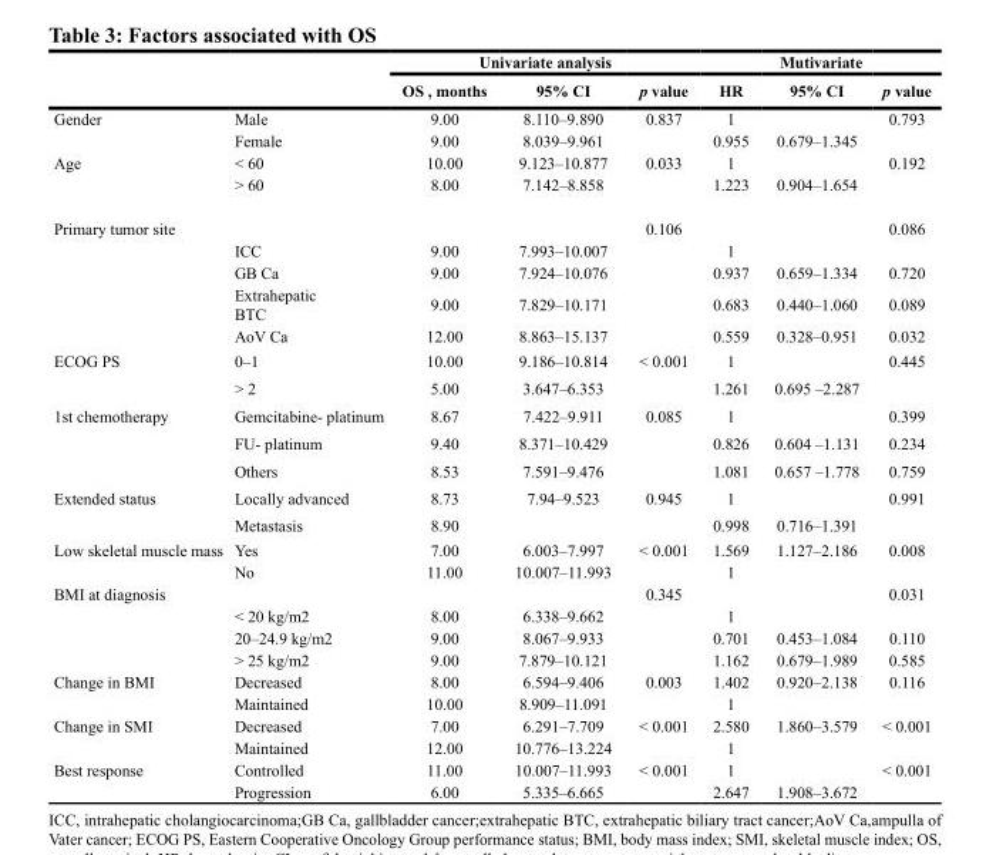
<table><thead><tr><td rowspan="2"></td><td rowspan="2"></td><td colspan="3">Univariate analysis</td><td colspan="3">Mutivariate</td></tr><tr><td>OS , months</td><td>95% CI</td><td>p value</td><td>HR</td><td>95% CI</td><td>p value</td></tr></thead><tbody><tr><td rowspan="2">Gender</td><td>Male</td><td>9.00</td><td>8.110–9.890</td><td>0.837</td><td>1</td><td></td><td>0.793</td></tr><tr><td>Female</td><td>9.00</td><td>8.039–9.961</td><td></td><td>0.955</td><td>0.679–1.345</td><td></td></tr><tr><td rowspan="2">Age</td><td>&lt; 60</td><td>10.00</td><td>9.123–10.877</td><td>0.033</td><td>1</td><td></td><td>0.192</td></tr><tr><td>&gt; 60</td><td>8.00</td><td>7.142–8.858</td><td></td><td>1.223</td><td>0.904–1.654</td><td></td></tr><tr><td rowspan="5">Primary tumor site</td><td></td><td></td><td></td><td>0.106</td><td></td><td></td><td>0.086</td></tr><tr><td>ICC</td><td>9.00</td><td>7.993–10.007</td><td></td><td>1</td><td></td><td></td></tr><tr><td>GB Ca</td><td>9.00</td><td>7.924–10.076</td><td></td><td>0.937</td><td>0.659–1.334</td><td>0.720</td></tr><tr><td>Extrahepatic BTC</td><td>9.00</td><td>7.829–10.171</td><td></td><td>0.683</td><td>0.440–1.060</td><td>0.089</td></tr><tr><td>AoV Ca</td><td>12.00</td><td>8.863–15.137</td><td></td><td>0.559</td><td>0.328–0.951</td><td>0.032</td></tr><tr><td rowspan="2">ECOG PS</td><td>0–1</td><td>10.00</td><td>9.186–10.814</td><td>&lt; 0.001</td><td>1</td><td></td><td>0.445</td></tr><tr><td>&gt; 2</td><td>5.00</td><td>3.647–6.353</td><td></td><td>1.261</td><td>0.695 –2.287</td><td></td></tr><tr><td rowspan="3">1st chemotherapy</td><td>Gemcitabine- platinum</td><td>8.67</td><td>7.422–9.911</td><td>0.085</td><td>1</td><td></td><td>0.399</td></tr><tr><td>FU- platinum</td><td>9.40</td><td>8.371–10.429</td><td></td><td>0.826</td><td>0.604 –1.131</td><td>0.234</td></tr><tr><td>Others</td><td>8.53</td><td>7.591–9.476</td><td></td><td>1.081</td><td>0.657 –1.778</td><td>0.759</td></tr><tr><td rowspan="2">Extended status</td><td>Locally advanced</td><td>8.73</td><td>7.94–9.523</td><td>0.945</td><td>1</td><td></td><td>0.991</td></tr><tr><td>Metastasis</td><td>8.90</td><td></td><td></td><td>0.998</td><td>0.716–1.391</td><td></td></tr><tr><td rowspan="2">Low skeletal muscle mass</td><td>Yes</td><td>7.00</td><td>6.003–7.997</td><td>&lt; 0.001</td><td>1.569</td><td>1.127–2.186</td><td>0.008</td></tr><tr><td>No</td><td>11.00</td><td>10.007–11.993</td><td></td><td>1</td><td></td><td></td></tr><tr><td rowspan="4">BMI at diagnosis</td><td></td><td></td><td></td><td>0.345</td><td></td><td></td><td>0.031</td></tr><tr><td>&lt; 20 kg/m2</td><td>8.00</td><td>6.338–9.662</td><td></td><td>1</td><td></td><td></td></tr><tr><td>20–24.9 kg/m2</td><td>9.00</td><td>8.067–9.933</td><td></td><td>0.701</td><td>0.453–1.084</td><td>0.110</td></tr><tr><td>&gt; 25 kg/m2</td><td>9.00</td><td>7.879–10.121</td><td></td><td>1.162</td><td>0.679–1.989</td><td>0.585</td></tr><tr><td rowspan="2">Change in BMI</td><td>Decreased</td><td>8.00</td><td>6.594–9.406</td><td>0.003</td><td>1.402</td><td>0.920–2.138</td><td>0.116</td></tr><tr><td>Maintained</td><td>10.00</td><td>8.909–11.091</td><td></td><td>1</td><td></td><td></td></tr><tr><td rowspan="2">Change in SMI</td><td>Decreased</td><td>7.00</td><td>6.291–7.709</td><td>&lt; 0.001</td><td>2.580</td><td>1.860–3.579</td><td>&lt; 0.001</td></tr><tr><td>Maintained</td><td>12.00</td><td>10.776–13.224</td><td></td><td>1</td><td></td><td></td></tr><tr><td rowspan="2">Best response</td><td>Controlled</td><td>11.00</td><td>10.007–11.993</td><td>&lt; 0.001</td><td>1</td><td></td><td>&lt; 0.001</td></tr><tr><td>Progression</td><td>6.00</td><td>5.335–6.665</td><td></td><td>2.647</td><td>1.908–3.672</td><td></td></tr></tbody></table>